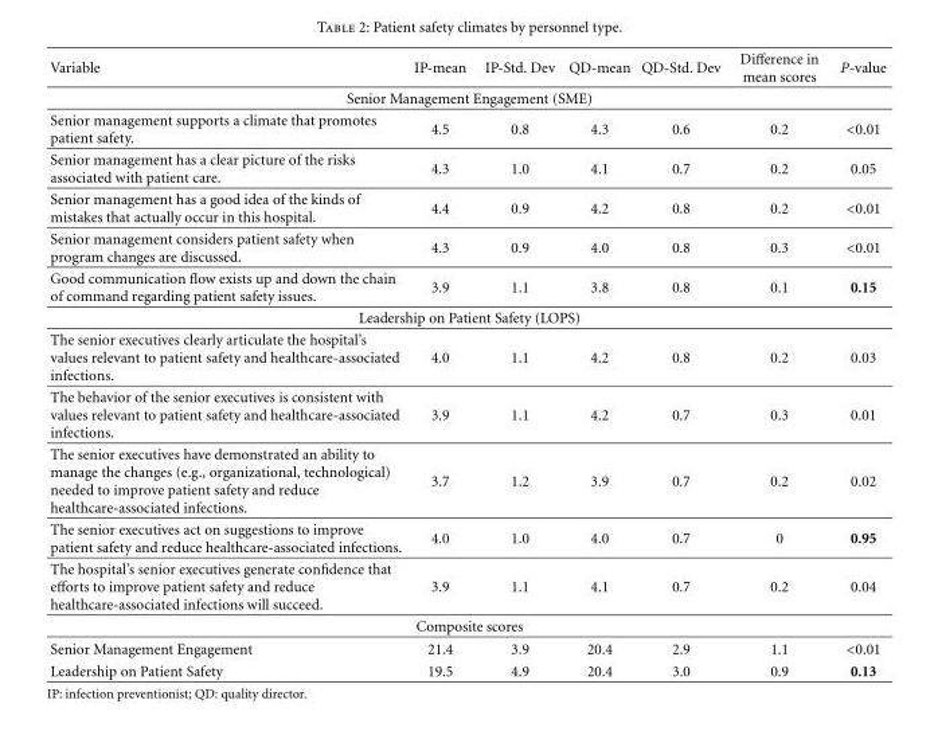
<table><thead><tr><td>Variable</td><td>IP-mean</td><td>IP-Std. Dev</td><td>QD-mean</td><td>QD-Std. Dev</td><td>Difference in mean scores</td><td>P-value</td></tr></thead><tbody><tr><td colspan="7">Senior Management Engagement (SME)</td></tr><tr><td>Senior management supports a climate that promotes patient safety.</td><td>4.5</td><td>0.8</td><td>4.3</td><td>0.6</td><td>0.2</td><td>&lt;0.01</td></tr><tr><td>Senior management has a clear picture of the risks associated with patient care.</td><td>4.3</td><td>1.0</td><td>4.1</td><td>0.7</td><td>0.2</td><td>0.05</td></tr><tr><td>Senior management has a good idea of the kinds of mistakes that actually occur in this hospital.</td><td>4.4</td><td>0.9</td><td>4.2</td><td>0.8</td><td>0.2</td><td>&lt;0.01</td></tr><tr><td>Senior management considers patient safety when program changes are discussed.</td><td>4.3</td><td>0.9</td><td>4.0</td><td>0.8</td><td>0.3</td><td>&lt;0.01</td></tr><tr><td>Good communication flow exists up and down the chain of command regarding patient safety issues.</td><td>3.9</td><td>1.1</td><td>3.8</td><td>0.8</td><td>0.1</td><td>0.15</td></tr><tr><td colspan="7">Leadership on Patient Safety (LOPS)</td></tr><tr><td>The senior executives clearly articulate the hospital’s values relevant to patient safety and healthcare-associated infections.</td><td>4.0</td><td>1.1</td><td>4.2</td><td>0.8</td><td>0.2</td><td>0.03</td></tr><tr><td>The behavior of the senior executives is consistent with values relevant to patient safety and healthcare-associated infections.</td><td>3.9</td><td>1.1</td><td>4.2</td><td>0.7</td><td>0.3</td><td>0.01</td></tr><tr><td>The senior executives have demonstrated an ability to manage the changes (e.g., organizational, technological) needed to improve patient safety and reduce healthcare-associated infections.</td><td>3.7</td><td>1.2</td><td>3.9</td><td>0.7</td><td>0.2</td><td>0.02</td></tr><tr><td>The senior executives act on suggestions to improve patient safety and reduce healthcare-associated infections.</td><td>4.0</td><td>1.0</td><td>4.0</td><td>0.7</td><td>0</td><td>0.95</td></tr><tr><td>The hospital’s senior executives generate confidence that efforts to improve patient safety and reduce healthcare-associated infections will succeed.</td><td>3.9</td><td>1.1</td><td>4.1</td><td>0.7</td><td>0.2</td><td>0.04</td></tr><tr><td colspan="7">Composite scores</td></tr><tr><td>Senior Management Engagement</td><td>21.4</td><td>3.9</td><td>20.4</td><td>2.9</td><td>1.1</td><td>&lt;0.01</td></tr><tr><td>Leadership on Patient Safety</td><td>19.5</td><td>4.9</td><td>20.4</td><td>3.0</td><td>0.9</td><td>0.13</td></tr></tbody></table>